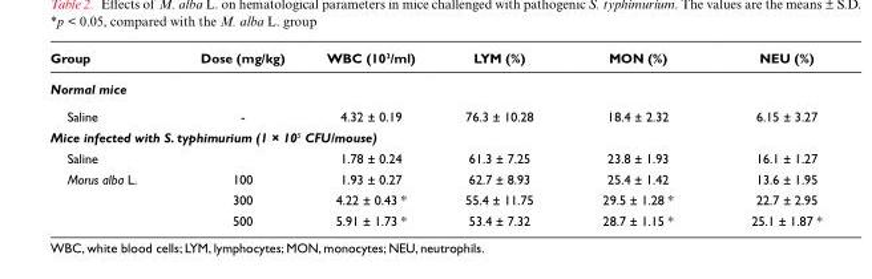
<table><thead><tr><td>Group</td><td>Dose (mg/kg)</td><td>WBC (10<sup>3</sup>/ml)</td><td>LYM (%)</td><td>MON (%)</td><td>NEU (%)</td></tr></thead><tbody><tr><td colspan="6">Normal mice</td></tr><tr><td>Saline</td><td>-</td><td>4.32 ± 0.19</td><td>76.3 ± 10.28</td><td>18.4 ± 2.32</td><td>6.15 ± 3.27</td></tr><tr><td colspan="6">Mice infected with S. typhimurium (1 × 10<sup>5</sup> CFU/mouse)</td></tr><tr><td>Saline</td><td></td><td>1.78 ± 0.24</td><td>61.3 ± 7.25</td><td>23.8 ± 1.93</td><td>16.1 ± 1.27</td></tr><tr><td rowspan="3">Morus alba L.</td><td>100</td><td>1.93 ± 0.27</td><td>62.7 ± 8.93</td><td>25.4 ± 1.42</td><td>13.6 ± 1.95</td></tr><tr><td>300</td><td>4.22 ± 0.43 *</td><td>55.4 ± 11.75</td><td>29.5 ± 1.28 *</td><td>22.7 ± 2.95</td></tr><tr><td>500</td><td>5.91 ± 1.73 *</td><td>53.4 ± 7.32</td><td>28.7 ± 1.15 *</td><td>25.1 ± 1.87 *</td></tr></tbody></table>